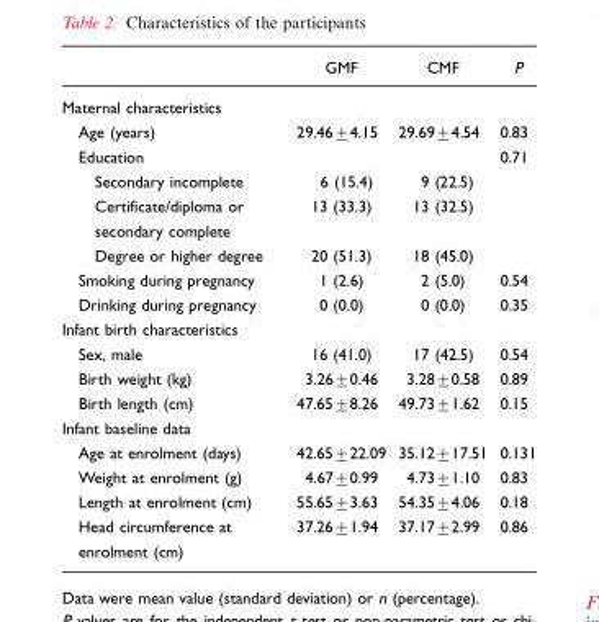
<table><thead><tr><td></td><td>GMF</td><td>CMF</td><td>P</td></tr></thead><tbody><tr><td colspan="4">Maternal characteristics</td></tr><tr><td>Age (years)</td><td>29.46±4.15</td><td>29.69±4.54</td><td>0.83</td></tr><tr><td>Education</td><td></td><td></td><td>0.71</td></tr><tr><td>Secondary incomplete</td><td>6 (15.4)</td><td>9 (22.5)</td><td></td></tr><tr><td>Certificate/diploma or secondary complete</td><td>13 (33.3)</td><td>13 (32.5)</td><td></td></tr><tr><td>Degree or higher degree</td><td>20 (51.3)</td><td>18 (45.0)</td><td></td></tr><tr><td>Smoking during pregnancy</td><td>1 (2.6)</td><td>2 (5.0)</td><td>0.54</td></tr><tr><td>Drinking during pregnancy</td><td>0 (0.0)</td><td>0 (0.0)</td><td>0.35</td></tr><tr><td colspan="4">Infant birth characteristics</td></tr><tr><td>Sex, male</td><td>16 (41.0)</td><td>17 (42.5)</td><td>0.54</td></tr><tr><td>Birth weight (kg)</td><td>3.26±0.46</td><td>3.28±0.58</td><td>0.89</td></tr><tr><td>Birth length (cm)</td><td>47.65±8.26</td><td>49.73±1.62</td><td>0.15</td></tr><tr><td colspan="4">Infant baseline data</td></tr><tr><td>Age at enrolment (days)</td><td>42.65±22.09</td><td>35.12±17.51</td><td>0.131</td></tr><tr><td>Weight at enrolment (g)</td><td>4.67±0.99</td><td>4.73±1.10</td><td>0.83</td></tr><tr><td>Length at enrolment (cm)</td><td>55.65±3.63</td><td>54.35±4.06</td><td>0.18</td></tr><tr><td>Head circumference at enrolment (cm)</td><td>37.26±1.94</td><td>37.17±2.99</td><td>0.86</td></tr></tbody></table>